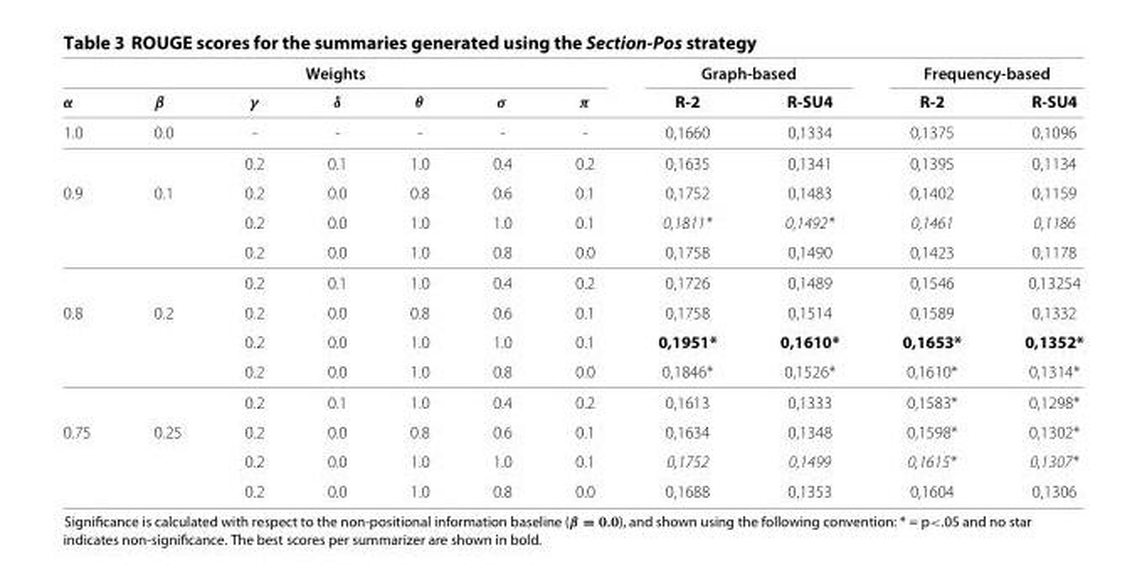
<table><thead><tr><td colspan="7">Weights</td><td colspan="2">Graph-based</td><td colspan="2">Frequency-based</td></tr><tr><td>α</td><td>β</td><td>γ</td><td>δ</td><td>θ</td><td>σ</td><td>π</td><td>R-2</td><td>R-SU4</td><td>R-2</td><td>R-SU4</td></tr></thead><tbody><tr><td rowspan="2">1.0</td><td>0.0</td><td>-</td><td>-</td><td>-</td><td>-</td><td>-</td><td>0,1660</td><td>0,1334</td><td>0,1375</td><td>0,1096</td></tr><tr><td></td><td>0.2</td><td>0.1</td><td>1.0</td><td>0.4</td><td>0.2</td><td>0,1635</td><td>0,1341</td><td>0,1395</td><td>0,1134</td></tr><tr><td rowspan="4">0.9</td><td>0.1</td><td>0.2</td><td>0.0</td><td>0.8</td><td>0.6</td><td>0.1</td><td>0,1752</td><td>0,1483</td><td>0,1402</td><td>0,1159</td></tr><tr><td></td><td>0.2</td><td>0.0</td><td>1.0</td><td>1.0</td><td>0.1</td><td>0,1811*</td><td>0,1492*</td><td>0,1461</td><td>0,1186</td></tr><tr><td></td><td>0.2</td><td>0.0</td><td>1.0</td><td>0.8</td><td>0.0</td><td>0,1758</td><td>0,1490</td><td>0,1423</td><td>0,1178</td></tr><tr><td></td><td>0.2</td><td>0.1</td><td>1.0</td><td>0.4</td><td>0.2</td><td>0,1726</td><td>0,1489</td><td>0,1546</td><td>0,13254</td></tr><tr><td rowspan="4">0.8</td><td>0.2</td><td>0.2</td><td>0.0</td><td>0.8</td><td>0.6</td><td>0.1</td><td>0,1758</td><td>0,1514</td><td>0,1589</td><td>0,1332</td></tr><tr><td></td><td>0.2</td><td>0.0</td><td>1.0</td><td>1.0</td><td>0.1</td><td>0,1951*</td><td>0,1610*</td><td>0,1653*</td><td>0,1352*</td></tr><tr><td></td><td>0.2</td><td>0.0</td><td>1.0</td><td>0.8</td><td>0.0</td><td>0,1846*</td><td>0,1526*</td><td>0,1610*</td><td>0,1314*</td></tr><tr><td></td><td>0.2</td><td>0.1</td><td>1.0</td><td>0.4</td><td>0.2</td><td>0,1613</td><td>0,1333</td><td>0,1583*</td><td>0,1298*</td></tr><tr><td rowspan="3">0.75</td><td>0.25</td><td>0.2</td><td>0.0</td><td>0.8</td><td>0.6</td><td>0.1</td><td>0,1634</td><td>0,1348</td><td>0,1598*</td><td>0,1302*</td></tr><tr><td></td><td>0.2</td><td>0.0</td><td>1.0</td><td>1.0</td><td>0.1</td><td>0,1752</td><td>0,1499</td><td>0,1615*</td><td>0,1307*</td></tr><tr><td></td><td>0.2</td><td>0.0</td><td>1.0</td><td>0.8</td><td>0.0</td><td>0,1688</td><td>0,1353</td><td>0,1604</td><td>0,1306</td></tr></tbody></table>